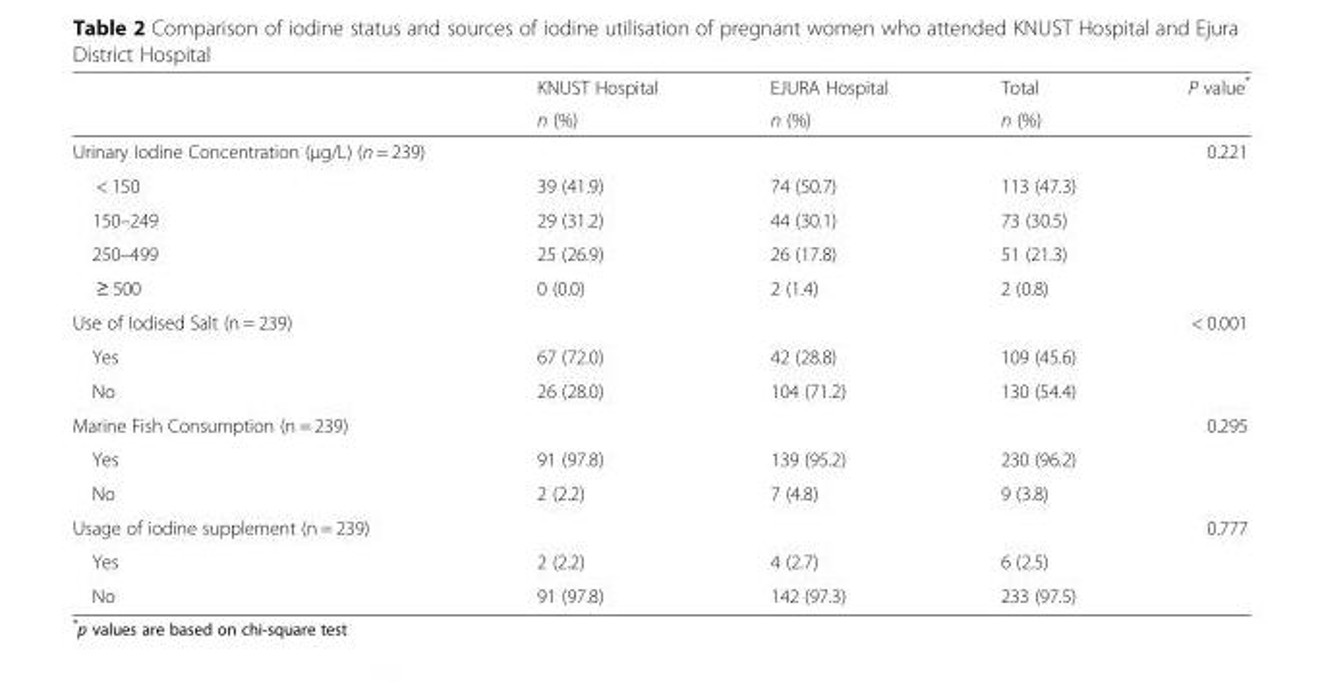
<table><thead><tr><td rowspan="2"></td><td rowspan="2">KNUST Hospital n (%)</td><td rowspan="2">EJURA Hospital n (%)</td><td rowspan="2">Total n (%)</td><td rowspan="2">P value*</td></tr><tr></tr></thead><tbody><tr><td>Urinary Iodine Concentration (μg/L) (n = 239)</td><td></td><td></td><td></td><td>0.221</td></tr><tr><td>&lt; 150</td><td>39 (41.9)</td><td>74 (50.7)</td><td>113 (47.3)</td><td></td></tr><tr><td>150–249</td><td>29 (31.2)</td><td>44 (30.1)</td><td>73 (30.5)</td><td></td></tr><tr><td>250–499</td><td>25 (26.9)</td><td>26 (17.8)</td><td>51 (21.3)</td><td></td></tr><tr><td>≥ 500</td><td>0 (0.0)</td><td>2 (1.4)</td><td>2 (0.8)</td><td></td></tr><tr><td>Use of Iodised Salt (n = 239)</td><td></td><td></td><td></td><td>&lt; 0.001</td></tr><tr><td>Yes</td><td>67 (72.0)</td><td>42 (28.8)</td><td>109 (45.6)</td><td></td></tr><tr><td>No</td><td>26 (28.0)</td><td>104 (71.2)</td><td>130 (54.4)</td><td></td></tr><tr><td>Marine Fish Consumption (n = 239)</td><td></td><td></td><td></td><td>0.295</td></tr><tr><td>Yes</td><td>91 (97.8)</td><td>139 (95.2)</td><td>230 (96.2)</td><td></td></tr><tr><td>No</td><td>2 (2.2)</td><td>7 (4.8)</td><td>9 (3.8)</td><td></td></tr><tr><td>Usage of iodine supplement (n = 239)</td><td></td><td></td><td></td><td>0.777</td></tr><tr><td>Yes</td><td>2 (2.2)</td><td>4 (2.7)</td><td>6 (2.5)</td><td></td></tr><tr><td>No</td><td>91 (97.8)</td><td>142 (97.3)</td><td>233 (97.5)</td><td></td></tr></tbody></table>